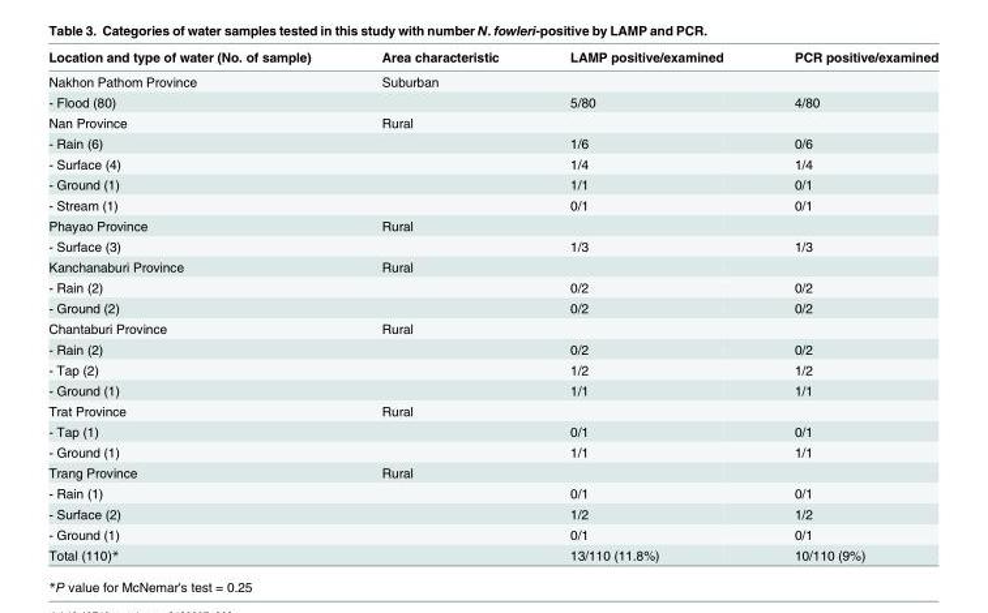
<table><thead><tr><td>Location and type of water (No. of sample)</td><td>Area characteristic</td><td>LAMP positive/examined</td><td>PCR positive/examined</td></tr></thead><tbody><tr><td>Nakhon Pathom Province</td><td>Suburban</td><td></td><td></td></tr><tr><td>- Flood (80)</td><td></td><td>5/80</td><td>4/80</td></tr><tr><td>Nan Province</td><td>Rural</td><td></td><td></td></tr><tr><td>- Rain (6)</td><td></td><td>1/6</td><td>0/6</td></tr><tr><td>- Surface (4)</td><td></td><td>1/4</td><td>1/4</td></tr><tr><td>- Ground (1)</td><td></td><td>1/1</td><td>0/1</td></tr><tr><td>- Stream (1)</td><td></td><td>0/1</td><td>0/1</td></tr><tr><td>Phayao Province</td><td>Rural</td><td></td><td></td></tr><tr><td>- Surface (3)</td><td></td><td>1/3</td><td>1/3</td></tr><tr><td>Kanchanaburi Province</td><td>Rural</td><td></td><td></td></tr><tr><td>- Rain (2)</td><td></td><td>0/2</td><td>0/2</td></tr><tr><td>- Ground (2)</td><td></td><td>0/2</td><td>0/2</td></tr><tr><td>Chantaburi Province</td><td>Rural</td><td></td><td></td></tr><tr><td>- Rain (2)</td><td></td><td>0/2</td><td>0/2</td></tr><tr><td>- Tap (2)</td><td></td><td>1/2</td><td>1/2</td></tr><tr><td>- Ground (1)</td><td></td><td>1/1</td><td>1/1</td></tr><tr><td>Trat Province</td><td>Rural</td><td></td><td></td></tr><tr><td>- Tap (1)</td><td></td><td>0/1</td><td>0/1</td></tr><tr><td>- Ground (1)</td><td></td><td>1/1</td><td>1/1</td></tr><tr><td>Trang Province</td><td>Rural</td><td></td><td></td></tr><tr><td>- Rain (1)</td><td></td><td>0/1</td><td>0/1</td></tr><tr><td>- Surface (2)</td><td></td><td>1/2</td><td>1/2</td></tr><tr><td>- Ground (1)</td><td></td><td>0/1</td><td>0/1</td></tr><tr><td>Total (110)*</td><td></td><td>13/110 (11.8%)</td><td>10/110 (9%)</td></tr></tbody></table>